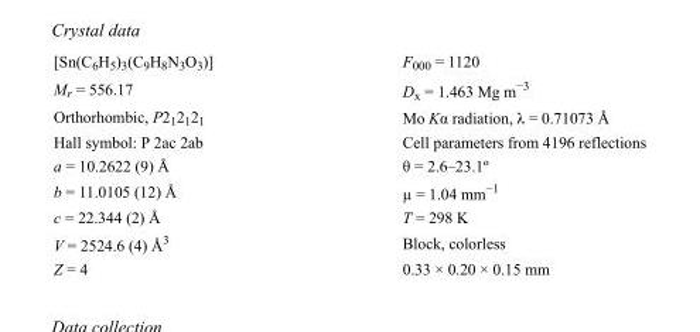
<table><tbody><tr><td>[Sn(C<sub>6</sub>H<sub>5</sub>)<sub>3</sub>(C<sub>9</sub>H<sub>8</sub>N<sub>3</sub>O<sub>3</sub>)]</td><td>F000 = 1120</td></tr><tr><td>M<sub>r</sub> = 556.17</td><td>D<sub>x</sub> = 1.463 Mg m<sup>−3</sup></td></tr><tr><td>Orthorhombic, P2<sub>1</sub>2<sub>1</sub>2<sub>1</sub></td><td>Mo Kα radiation, λ = 0.71073 Å</td></tr><tr><td>Hall symbol: P 2ac 2ab</td><td>Cell parameters from 4196 reflections</td></tr><tr><td>a = 10.2622 (9) Å</td><td>θ = 2.6–23.1º</td></tr><tr><td>b = 11.0105 (12) Å</td><td>µ = 1.04 mm<sup>−1</sup></td></tr><tr><td>c = 22.344 (2) Å</td><td>T = 298 K</td></tr><tr><td>V = 2524.6 (4) Å<sup>3</sup></td><td>Block, colorless</td></tr><tr><td>Z = 4</td><td>0.33 × 0.20 × 0.15 mm</td></tr></tbody></table>